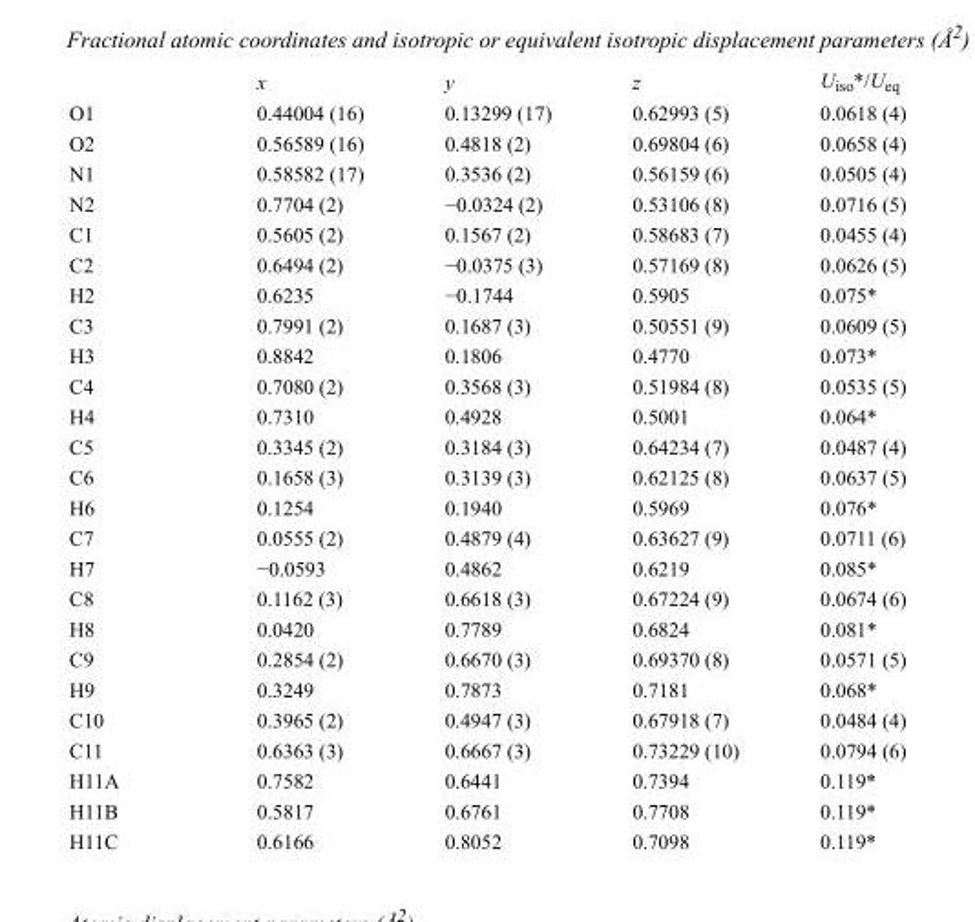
<table><thead><tr><td></td><td>x</td><td>y</td><td>z</td><td>U<sub>iso</sub>*/U<sub>eq</sub></td></tr></thead><tbody><tr><td>O1</td><td>0.44004 (16)</td><td>0.13299 (17)</td><td>0.62993 (5)</td><td>0.0618 (4)</td></tr><tr><td>O2</td><td>0.56589 (16)</td><td>0.4818 (2)</td><td>0.69804 (6)</td><td>0.0658 (4)</td></tr><tr><td>N1</td><td>0.58582 (17)</td><td>0.3536 (2)</td><td>0.56159 (6)</td><td>0.0505 (4)</td></tr><tr><td>N2</td><td>0.7704 (2)</td><td>−0.0324 (2)</td><td>0.53106 (8)</td><td>0.0716 (5)</td></tr><tr><td>C1</td><td>0.5605 (2)</td><td>0.1567 (2)</td><td>0.58683 (7)</td><td>0.0455 (4)</td></tr><tr><td>C2</td><td>0.6494 (2)</td><td>−0.0375 (3)</td><td>0.57169 (8)</td><td>0.0626 (5)</td></tr><tr><td>H2</td><td>0.6235</td><td>−0.1744</td><td>0.5905</td><td>0.075*</td></tr><tr><td>C3</td><td>0.7991 (2)</td><td>0.1687 (3)</td><td>0.50551 (9)</td><td>0.0609 (5)</td></tr><tr><td>H3</td><td>0.8842</td><td>0.1806</td><td>0.4770</td><td>0.073*</td></tr><tr><td>C4</td><td>0.7080 (2)</td><td>0.3568 (3)</td><td>0.51984 (8)</td><td>0.0535 (5)</td></tr><tr><td>H4</td><td>0.7310</td><td>0.4928</td><td>0.5001</td><td>0.064*</td></tr><tr><td>C5</td><td>0.3345 (2)</td><td>0.3184 (3)</td><td>0.64234 (7)</td><td>0.0487 (4)</td></tr><tr><td>C6</td><td>0.1658 (3)</td><td>0.3139 (3)</td><td>0.62125 (8)</td><td>0.0637 (5)</td></tr><tr><td>H6</td><td>0.1254</td><td>0.1940</td><td>0.5969</td><td>0.076*</td></tr><tr><td>C7</td><td>0.0555 (2)</td><td>0.4879 (4)</td><td>0.63627 (9)</td><td>0.0711 (6)</td></tr><tr><td>H7</td><td>−0.0593</td><td>0.4862</td><td>0.6219</td><td>0.085*</td></tr><tr><td>C8</td><td>0.1162 (3)</td><td>0.6618 (3)</td><td>0.67224 (9)</td><td>0.0674 (6)</td></tr><tr><td>H8</td><td>0.0420</td><td>0.7789</td><td>0.6824</td><td>0.081*</td></tr><tr><td>C9</td><td>0.2854 (2)</td><td>0.6670 (3)</td><td>0.69370 (8)</td><td>0.0571 (5)</td></tr><tr><td>H9</td><td>0.3249</td><td>0.7873</td><td>0.7181</td><td>0.068*</td></tr><tr><td>C10</td><td>0.3965 (2)</td><td>0.4947 (3)</td><td>0.67918 (7)</td><td>0.0484 (4)</td></tr><tr><td>C11</td><td>0.6363 (3)</td><td>0.6667 (3)</td><td>0.73229 (10)</td><td>0.0794 (6)</td></tr><tr><td>H11A</td><td>0.7582</td><td>0.6441</td><td>0.7394</td><td>0.119*</td></tr><tr><td>H11B</td><td>0.5817</td><td>0.6761</td><td>0.7708</td><td>0.119*</td></tr><tr><td>H11C</td><td>0.6166</td><td>0.8052</td><td>0.7098</td><td>0.119*</td></tr></tbody></table>